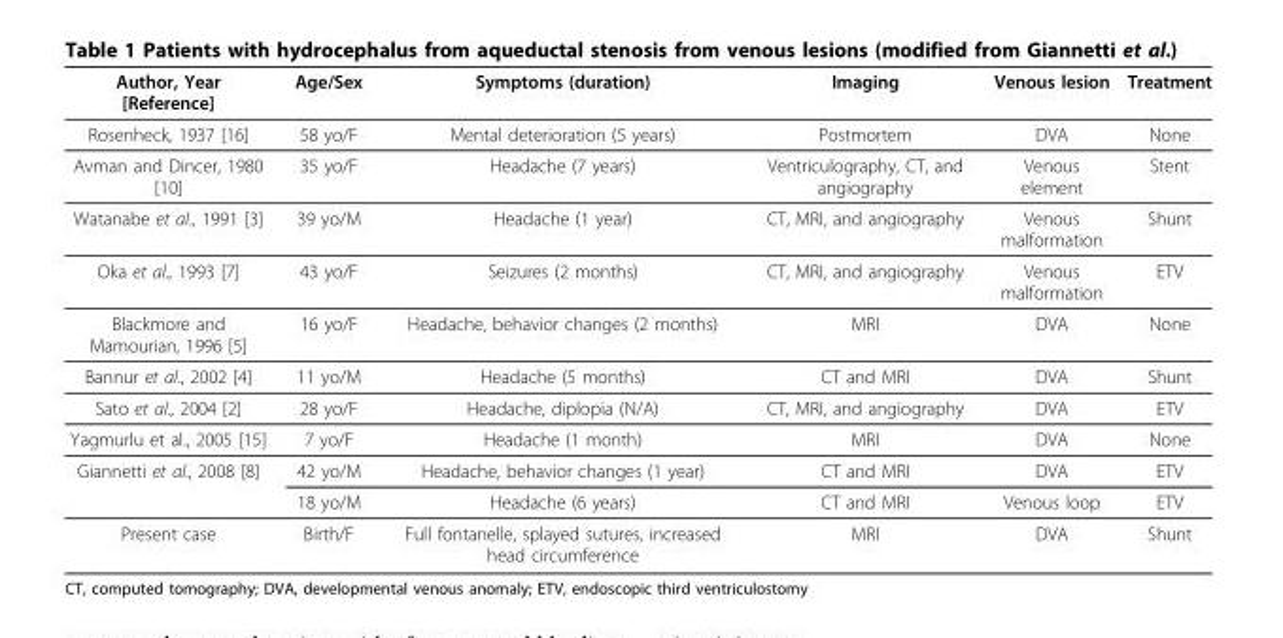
<table><thead><tr><td>Author, Year [Reference]</td><td>Age/Sex</td><td>Symptoms (duration)</td><td>Imaging</td><td>Venous lesion</td><td>Treatment</td></tr></thead><tbody><tr><td>Rosenheck, 1937 [16]</td><td>58 yo/F</td><td>Mental deterioration (5 years)</td><td>Postmortem</td><td>DVA</td><td>None</td></tr><tr><td>Avman and Dincer, 1980 [10]</td><td>35 yo/F</td><td>Headache (7 years)</td><td>Ventriculography, CT, and angiography</td><td>Venous element</td><td>Stent</td></tr><tr><td>Watanabe et al., 1991 [3]</td><td>39 yo/M</td><td>Headache (1 year)</td><td>CT, MRI, and angiography</td><td>Venous malformation</td><td>Shunt</td></tr><tr><td>Oka et al., 1993 [7]</td><td>43 yo/F</td><td>Seizures (2 months)</td><td>CT, MRI, and angiography</td><td>Venous malformation</td><td>ETV</td></tr><tr><td>Blackmore and Mamourian, 1996 [5]</td><td>16 yo/F</td><td>Headache, behavior changes (2 months)</td><td>MRI</td><td>DVA</td><td>None</td></tr><tr><td>Bannur et al., 2002 [4]</td><td>11 yo/M</td><td>Headache (5 months)</td><td>CT and MRI</td><td>DVA</td><td>Shunt</td></tr><tr><td>Sato et al., 2004 [2]</td><td>28 yo/F</td><td>Headache, diplopia (N/A)</td><td>CT, MRI, and angiography</td><td>DVA</td><td>ETV</td></tr><tr><td>Yagmurlu et al., 2005 [15]</td><td>7 yo/F</td><td>Headache (1 month)</td><td>MRI</td><td>DVA</td><td>None</td></tr><tr><td rowspan="2">Giannetti et al., 2008 [8]</td><td>42 yo/M</td><td>Headache, behavior changes (1 year)</td><td>CT and MRI</td><td>DVA</td><td>ETV</td></tr><tr><td>18 yo/M</td><td>Headache (6 years)</td><td>CT and MRI</td><td>Venous loop</td><td>ETV</td></tr><tr><td>Present case</td><td>Birth/F</td><td>Full fontanelle, splayed sutures, increased head circumference</td><td>MRI</td><td>DVA</td><td>Shunt</td></tr></tbody></table>